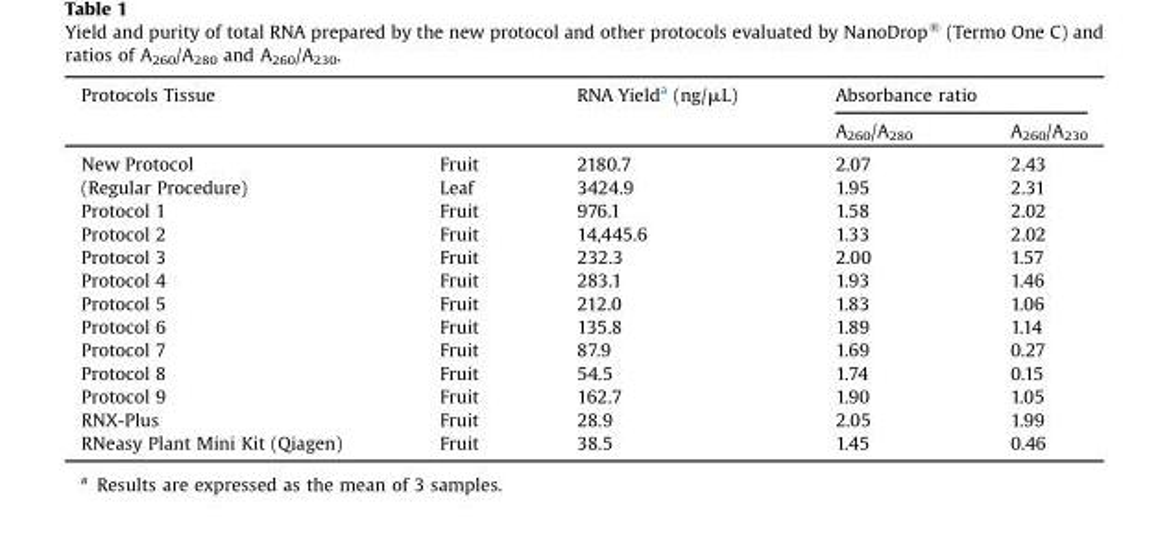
<table><thead><tr><td rowspan="2">Protocols Tissue</td><td rowspan="2"></td><td rowspan="2">RNA Yield<sup>a</sup> (ng/μL)</td><td colspan="2">Absorbance ratio</td></tr><tr><td>A<sub>260</sub>/A<sub>280</sub></td><td>A<sub>260</sub>/A<sub>230</sub></td></tr></thead><tbody><tr><td>New Protocol</td><td>Fruit</td><td>2180.7</td><td>2.07</td><td>2.43</td></tr><tr><td>(Regular Procedure)</td><td>Leaf</td><td>3424.9</td><td>1.95</td><td>2.31</td></tr><tr><td>Protocol 1</td><td>Fruit</td><td>976.1</td><td>1.58</td><td>2.02</td></tr><tr><td>Protocol 2</td><td>Fruit</td><td>14,445.6</td><td>1.33</td><td>2.02</td></tr><tr><td>Protocol 3</td><td>Fruit</td><td>232.3</td><td>2.00</td><td>1.57</td></tr><tr><td>Protocol 4</td><td>Fruit</td><td>283.1</td><td>1.93</td><td>1.46</td></tr><tr><td>Protocol 5</td><td>Fruit</td><td>212.0</td><td>1.83</td><td>1.06</td></tr><tr><td>Protocol 6</td><td>Fruit</td><td>135.8</td><td>1.89</td><td>1.14</td></tr><tr><td>Protocol 7</td><td>Fruit</td><td>87.9</td><td>1.69</td><td>0.27</td></tr><tr><td>Protocol 8</td><td>Fruit</td><td>54.5</td><td>1.74</td><td>0.15</td></tr><tr><td>Protocol 9</td><td>Fruit</td><td>162.7</td><td>1.90</td><td>1.05</td></tr><tr><td>RNX-Plus</td><td>Fruit</td><td>28.9</td><td>2.05</td><td>1.99</td></tr><tr><td>RNeasy Plant Mini Kit (Qiagen)</td><td>Fruit</td><td>38.5</td><td>1.45</td><td>0.46</td></tr></tbody></table>